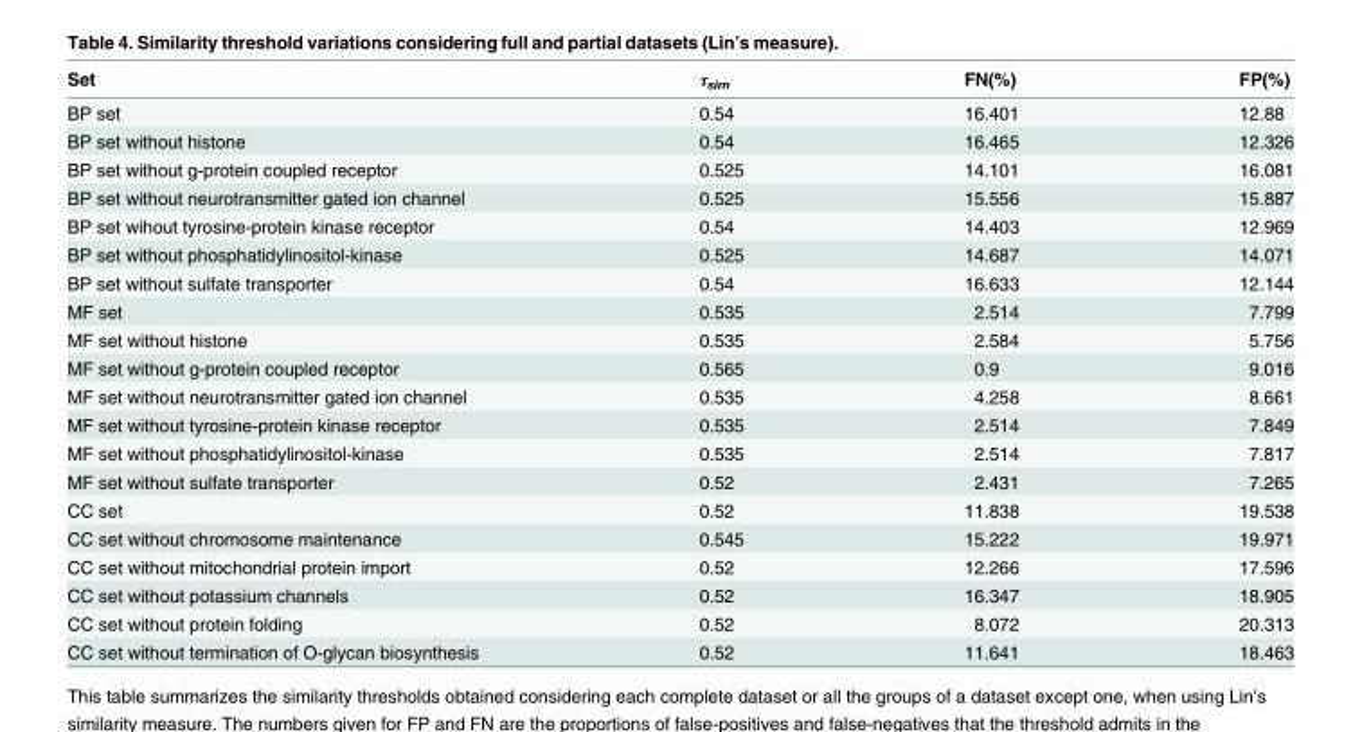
<table><thead><tr><td>Set</td><td>τ<sub>sim</sub></td><td>FN(%)</td><td>FP(%)</td></tr></thead><tbody><tr><td>BP set</td><td>0.54</td><td>16.401</td><td>12.88</td></tr><tr><td>BP set without histone</td><td>0.54</td><td>16.465</td><td>12.326</td></tr><tr><td>BP set without g-protein coupled receptor</td><td>0.525</td><td>14.101</td><td>16.081</td></tr><tr><td>BP set without neurotransmitter gated ion channel</td><td>0.525</td><td>15.556</td><td>15.887</td></tr><tr><td>BP set wihout tyrosine-protein kinase receptor</td><td>0.54</td><td>14.403</td><td>12.969</td></tr><tr><td>BP set without phosphatidylinositol-kinase</td><td>0.525</td><td>14.687</td><td>14.071</td></tr><tr><td>BP set without sulfate transporter</td><td>0.54</td><td>16.633</td><td>12.144</td></tr><tr><td>MF set</td><td>0.535</td><td>2.514</td><td>7.799</td></tr><tr><td>MF set without histone</td><td>0.535</td><td>2.584</td><td>5.756</td></tr><tr><td>MF set without g-protein coupled receptor</td><td>0.565</td><td>0.9</td><td>9.016</td></tr><tr><td>MF set without neurotransmitter gated ion channel</td><td>0.535</td><td>4.258</td><td>8.661</td></tr><tr><td>MF set without tyrosine-protein kinase receptor</td><td>0.535</td><td>2.514</td><td>7.849</td></tr><tr><td>MF set without phosphatidylinositol-kinase</td><td>0.535</td><td>2.514</td><td>7.817</td></tr><tr><td>MF set without sulfate transporter</td><td>0.52</td><td>2.431</td><td>7.265</td></tr><tr><td>CC set</td><td>0.52</td><td>11.838</td><td>19.538</td></tr><tr><td>CC set without chromosome maintenance</td><td>0.545</td><td>15.222</td><td>19.971</td></tr><tr><td>CC set without mitochondrial protein import</td><td>0.52</td><td>12.266</td><td>17.596</td></tr><tr><td>CC set without potassium channels</td><td>0.52</td><td>16.347</td><td>18.905</td></tr><tr><td>CC set without protein folding</td><td>0.52</td><td>8.072</td><td>20.313</td></tr><tr><td>CC set without termination of O-glycan biosynthesis</td><td>0.52</td><td>11.641</td><td>18.463</td></tr></tbody></table>